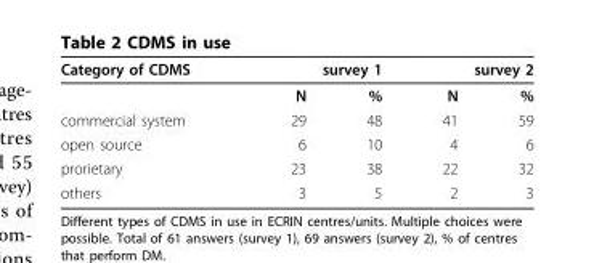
<table><thead><tr><td rowspan="2">Category of CDMS</td><td colspan="2">survey 1</td><td colspan="2">survey 2</td></tr><tr><td>N</td><td>%</td><td>N</td><td>%</td></tr></thead><tbody><tr><td>commercial system</td><td>29</td><td>48</td><td>41</td><td>59</td></tr><tr><td>open source</td><td>6</td><td>10</td><td>4</td><td>6</td></tr><tr><td>prorietary</td><td>23</td><td>38</td><td>22</td><td>32</td></tr><tr><td>others</td><td>3</td><td>5</td><td>2</td><td>3</td></tr></tbody></table>